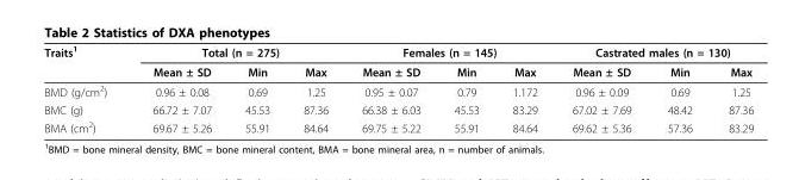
<table><thead><tr><td rowspan="2">Traits<sup>1</sup></td><td colspan="3">Total (n = 275)</td><td colspan="3">Females (n = 145)</td><td colspan="3">Castrated males (n = 130)</td></tr><tr><td>Mean ± SD</td><td>Min</td><td>Max</td><td>Mean ± SD</td><td>Min</td><td>Max</td><td>Mean ± SD</td><td>Min</td><td>Max</td></tr></thead><tbody><tr><td>BMD (g/cm<sup>2</sup>)</td><td>0.96 ± 0.08</td><td>0.69</td><td>1.25</td><td>0.95 ± 0.07</td><td>0.79</td><td>1.172</td><td>0.96 ± 0.09</td><td>0.69</td><td>1.25</td></tr><tr><td>BMC (g)</td><td>66.72 ± 7.07</td><td>45.53</td><td>87.36</td><td>66.38 ± 6.03</td><td>45.53</td><td>83.29</td><td>67.02 ± 7.69</td><td>48.42</td><td>87.36</td></tr><tr><td>BMA (cm<sup>2</sup>)</td><td>69.67 ± 5.26</td><td>55.91</td><td>84.64</td><td>69.75 ± 5.22</td><td>55.91</td><td>84.64</td><td>69.62 ± 5.36</td><td>57.36</td><td>83.29</td></tr></tbody></table>